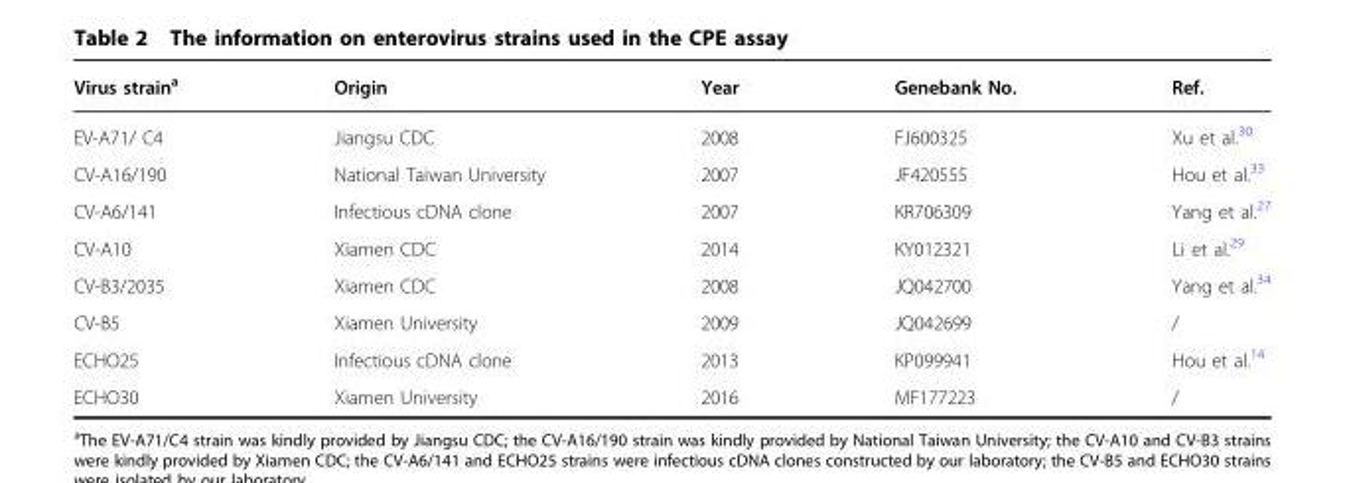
<table><thead><tr><td>Virus strain<sup>a</sup></td><td>Origin</td><td>Year</td><td>Genebank No.</td><td>Ref.</td></tr></thead><tbody><tr><td>EV-A71/ C4</td><td>Jiangsu CDC</td><td>2008</td><td>FJ600325</td><td>Xu et al.<sup>30</sup></td></tr><tr><td>CV-A16/190</td><td>National Taiwan University</td><td>2007</td><td>JF420555</td><td>Hou et al.<sup>33</sup></td></tr><tr><td>CV-A6/141</td><td>Infectious cDNA clone</td><td>2007</td><td>KR706309</td><td>Yang et al.<sup>27</sup></td></tr><tr><td>CV-A10</td><td>Xiamen CDC</td><td>2014</td><td>KY012321</td><td>Li et al.<sup>29</sup></td></tr><tr><td>CV-B3/2035</td><td>Xiamen CDC</td><td>2008</td><td>JQ042700</td><td>Yang et al.<sup>34</sup></td></tr><tr><td>CV-B5</td><td>Xiamen University</td><td>2009</td><td>JQ042699</td><td>/</td></tr><tr><td>ECHO25</td><td>Infectious cDNA clone</td><td>2013</td><td>KP099941</td><td>Hou et al.<sup>14</sup></td></tr><tr><td>ECHO30</td><td>Xiamen University</td><td>2016</td><td>MF177223</td><td>/</td></tr></tbody></table>